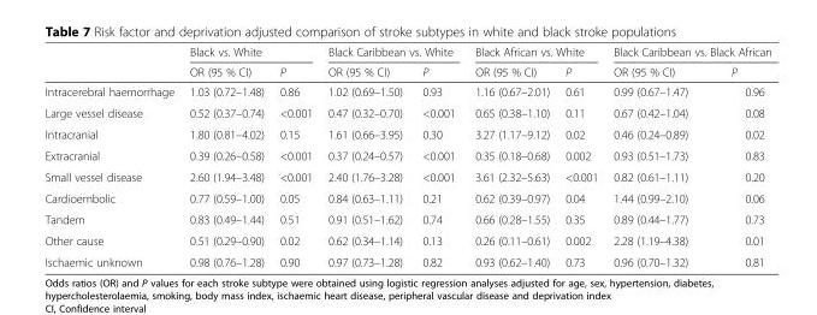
<table><thead><tr><td rowspan="2"></td><td colspan="2">Black vs. White</td><td colspan="2">Black Caribbean vs. White</td><td colspan="2">Black African vs. White</td><td colspan="2">Black Caribbean vs. Black African</td></tr><tr><td>OR (95 % CI)</td><td>P</td><td>OR (95 % CI)</td><td>P</td><td>OR (95 % CI)</td><td>P</td><td>OR (95 % CI)</td><td>P</td></tr></thead><tbody><tr><td>Intracerebral haemorrhage</td><td>1.03 (0.72–1.48)</td><td>0.86</td><td>1.02 (0.69–1.50)</td><td>0.93</td><td>1.16 (0.67–2.01)</td><td>0.61</td><td>0.99 (0.67–1.47)</td><td>0.96</td></tr><tr><td>Large vessel disease</td><td>0.52 (0.37–0.74)</td><td>&lt;0.001</td><td>0.47 (0.32–0.70)</td><td>&lt;0.001</td><td>0.65 (0.38–1.10)</td><td>0.11</td><td>0.67 (0.42–1.04)</td><td>0.08</td></tr><tr><td>Intracranial</td><td>1.80 (0.81–4.02)</td><td>0.15</td><td>1.61 (0.66–3.95)</td><td>0.30</td><td>3.27 (1.17–9.12)</td><td>0.02</td><td>0.46 (0.24–0.89)</td><td>0.02</td></tr><tr><td>Extracranial</td><td>0.39 (0.26–0.58)</td><td>&lt;0.001</td><td>0.37 (0.24–0.57)</td><td>&lt;0.001</td><td>0.35 (0.18–0.68)</td><td>0.002</td><td>0.93 (0.51–1.73)</td><td>0.83</td></tr><tr><td>Small vessel disease</td><td>2.60 (1.94–3.48)</td><td>&lt;0.001</td><td>2.40 (1.76–3.28)</td><td>&lt;0.001</td><td>3.61 (2.32–5.63)</td><td>&lt;0.001</td><td>0.82 (0.61–1.11)</td><td>0.20</td></tr><tr><td>Cardioembolic</td><td>0.77 (0.59–1.00)</td><td>0.05</td><td>0.84 (0.63–1.11)</td><td>0.21</td><td>0.62 (0.39–0.97)</td><td>0.04</td><td>1.44 (0.99–2.10)</td><td>0.06</td></tr><tr><td>Tandem</td><td>0.83 (0.49–1.44)</td><td>0.51</td><td>0.91 (0.51–1.62)</td><td>0.74</td><td>0.66 (0.28–1.55)</td><td>0.35</td><td>0.89 (0.44–1.77)</td><td>0.73</td></tr><tr><td>Other cause</td><td>0.51 (0.29–0.90)</td><td>0.02</td><td>0.62 (0.34–1.14)</td><td>0.13</td><td>0.26 (0.11–0.61)</td><td>0.002</td><td>2.28 (1.19–4.38)</td><td>0.01</td></tr><tr><td>Ischaemic unknown</td><td>0.98 (0.76–1.28)</td><td>0.90</td><td>0.97 (0.73–1.28)</td><td>0.82</td><td>0.93 (0.62–1.40)</td><td>0.73</td><td>0.96 (0.70–1.32)</td><td>0.81</td></tr></tbody></table>